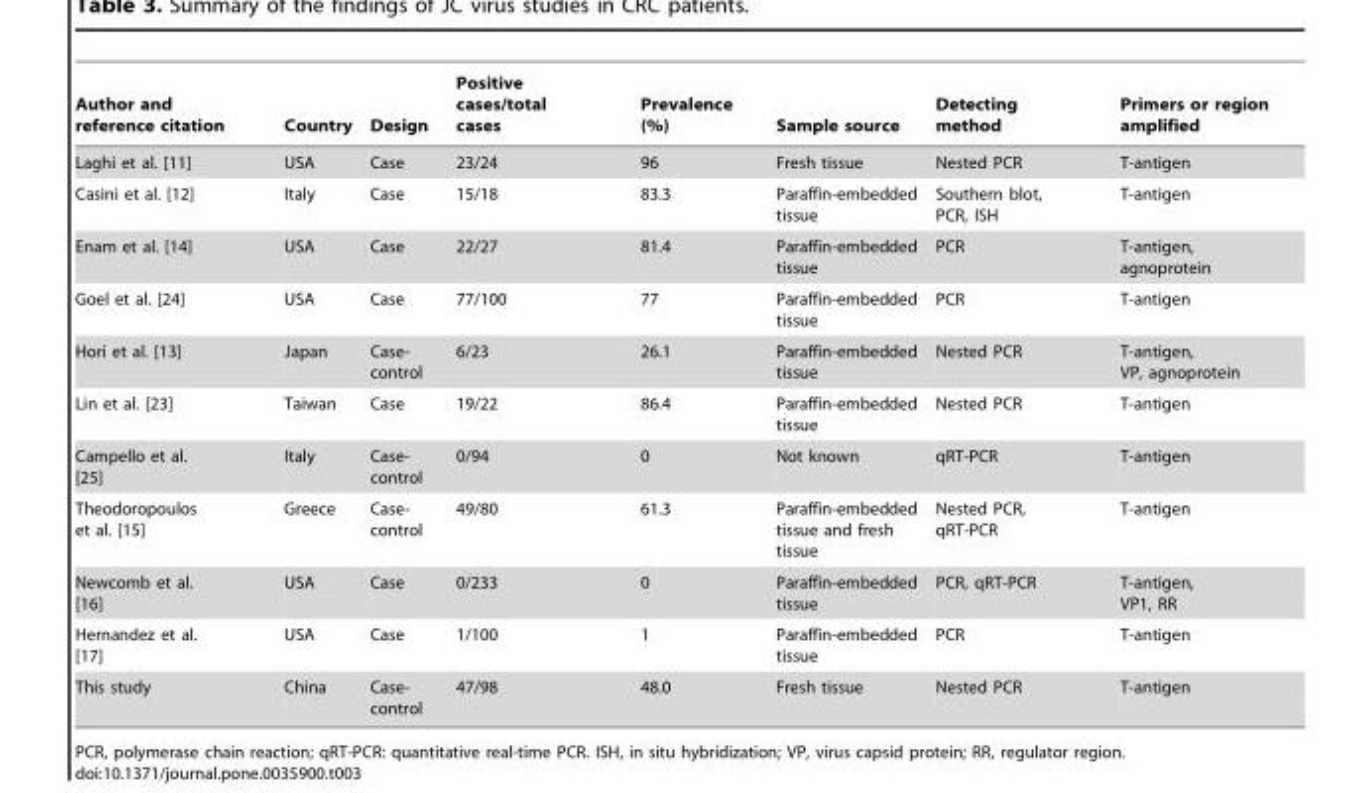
<table><thead><tr><td>Author and reference citation</td><td>Country</td><td>Design</td><td>Positive cases/total cases</td><td>Prevalence (%)</td><td>Sample source</td><td>Detecting method</td><td>Primers or region amplified</td></tr></thead><tbody><tr><td>Laghi et al. [11]</td><td>USA</td><td>Case</td><td>23/24</td><td>96</td><td>Fresh tissue</td><td>Nested PCR</td><td>T-antigen</td></tr><tr><td>Casini et al. [12]</td><td>Italy</td><td>Case</td><td>15/18</td><td>83.3</td><td>Paraffin-embedded tissue</td><td>Southern blot, PCR, ISH</td><td>T-antigen</td></tr><tr><td>Enam et al. [14]</td><td>USA</td><td>Case</td><td>22/27</td><td>81.4</td><td>Paraffin-embedded tissue</td><td>PCR</td><td>T-antigen, agnoprotein</td></tr><tr><td>Goel et al. [24]</td><td>USA</td><td>Case</td><td>77/100</td><td>77</td><td>Paraffin-embedded tissue</td><td>PCR</td><td>T-antigen</td></tr><tr><td>Hori et al. [13]</td><td>Japan</td><td>Case- control</td><td>6/23</td><td>26.1</td><td>Paraffin-embedded tissue</td><td>Nested PCR</td><td>T-antigen, VP, agnoprotein</td></tr><tr><td>Lin et al. [23]</td><td>Taiwan</td><td>Case</td><td>19/22</td><td>86.4</td><td>Paraffin-embedded tissue</td><td>Nested PCR</td><td>T-antigen</td></tr><tr><td>Campello et al. [25]</td><td>Italy</td><td>Case- control</td><td>0/94</td><td>0</td><td>Not known</td><td>qRT-PCR</td><td>T-antigen</td></tr><tr><td>Theodoropoulos et al. [15]</td><td>Greece</td><td>Case- control</td><td>49/80</td><td>61.3</td><td>Paraffin-embedded tissue and fresh tissue</td><td>Nested PCR, qRT-PCR</td><td>T-antigen</td></tr><tr><td>Newcomb et al. [16]</td><td>USA</td><td>Case</td><td>0/233</td><td>0</td><td>Paraffin-embedded tissue</td><td>PCR, qRT-PCR</td><td>T-antigen, VP1, RR</td></tr><tr><td>Hernandez et al. [17]</td><td>USA</td><td>Case</td><td>1/100</td><td>1</td><td>Paraffin-embedded tissue</td><td>PCR</td><td>T-antigen</td></tr><tr><td>This study</td><td>China</td><td>Case- control</td><td>47/98</td><td>48.0</td><td>Fresh tissue</td><td>Nested PCR</td><td>T-antigen</td></tr></tbody></table>